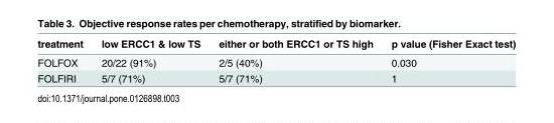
<table><thead><tr><td>treatment</td><td>low ERCC1 &amp; low TS</td><td>either or both ERCC1 or TS high</td><td>p value (Fisher Exact test)</td></tr></thead><tbody><tr><td>FOLFOX</td><td>20/22 (91%)</td><td>2/5 (40%)</td><td>0.030</td></tr><tr><td>FOLFIRI</td><td>5/7 (71%)</td><td>5/7 (71%)</td><td>1</td></tr></tbody></table>